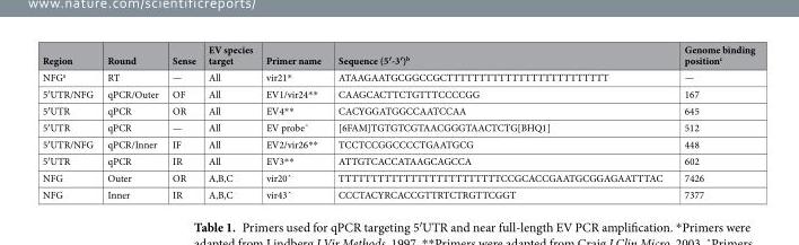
<table><thead><tr><td>Region</td><td>Round</td><td>Sense</td><td>EV species target</td><td>Primer name</td><td>Sequence (5′-3′)<sup>b</sup></td><td>Genome binding position<sup>c</sup></td></tr></thead><tbody><tr><td>NFG<sup>a</sup></td><td>RT</td><td>—</td><td>All</td><td>vir21*</td><td>ATAAGAATGCGGCCGCTTTTTTTTTTTTTTTTTTTTTTTTT</td><td>—</td></tr><tr><td>5′UTR/NFG</td><td>qPCR/Outer</td><td>OF</td><td>All</td><td>EV1/vir24**</td><td>CAAGCACTTCTGTTTCCCCGG</td><td>167</td></tr><tr><td>5′UTR</td><td>qPCR</td><td>OR</td><td>All</td><td>EV4**</td><td>CACYGGATGGCCAATCCAA</td><td>645</td></tr><tr><td>5′UTR</td><td>qPCR</td><td>—</td><td>All</td><td>EV probeˆ</td><td>[6FAM]TGTGTCGTAACGGGTAACTCTG[BHQ1]</td><td>512</td></tr><tr><td>5′UTR/NFG</td><td>qPCR/Inner</td><td>IF</td><td>All</td><td>EV2/vir26**</td><td>TCCTCCGGCCCCTGAATGCG</td><td>448</td></tr><tr><td>5′UTR</td><td>qPCR</td><td>IR</td><td>All</td><td>EV3**</td><td>ATTGTCACCATAAGCAGCCA</td><td>602</td></tr><tr><td>NFG</td><td>Outer</td><td>OR</td><td>A,B,C</td><td>vir20ˆ</td><td>TTTTTTTTTTTTTTTTTTTTTTTTTCCGCACCGAATGCGGAGAATTTAC</td><td>7426</td></tr><tr><td>NFG</td><td>Inner</td><td>IR</td><td>A,B,C</td><td>vir43ˆ</td><td>CCCTACYRCACCGTTRTCTRGTTCGGT</td><td>7377</td></tr></tbody></table>